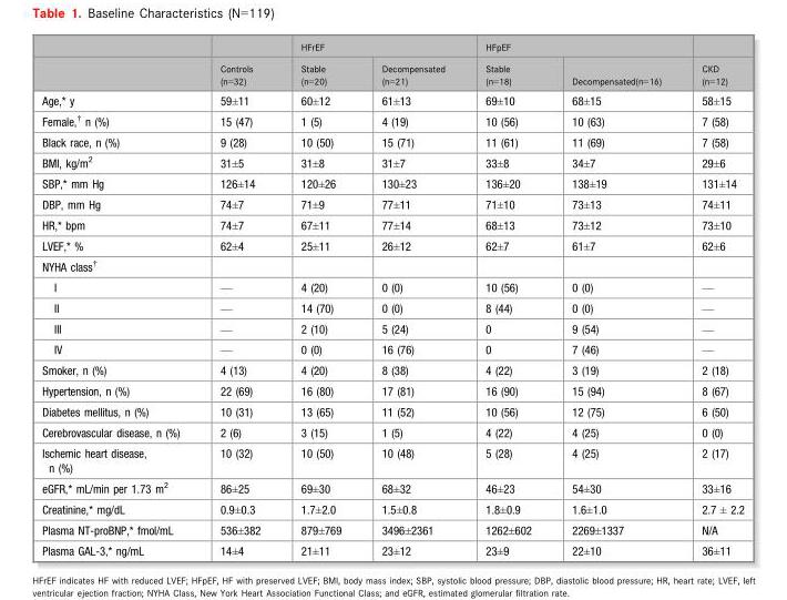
<table><thead><tr><td rowspan="2"></td><td rowspan="2">Controls (n=32)</td><td colspan="2">HFrEF</td><td colspan="2">HFpEF</td><td rowspan="2">CKD (n=12)</td></tr><tr><td>Stable (n=20)</td><td>Decompensated (n=21)</td><td>Stable (n=18)</td><td>Decompensated(n=16)</td></tr></thead><tbody><tr><td>Age,* y</td><td>59±11</td><td>60±12</td><td>61±13</td><td>69±10</td><td>68±15</td><td>58±15</td></tr><tr><td>Female,† n (%)</td><td>15 (47)</td><td>1 (5)</td><td>4 (19)</td><td>10 (56)</td><td>10 (63)</td><td>7 (58)</td></tr><tr><td>Black race, n (%)</td><td>9 (28)</td><td>10 (50)</td><td>15 (71)</td><td>11 (61)</td><td>11 (69)</td><td>7 (58)</td></tr><tr><td>BMI, kg/m<sup>2</sup></td><td>31±5</td><td>31±8</td><td>31±7</td><td>33±8</td><td>34±7</td><td>29±6</td></tr><tr><td>SBP,* mm Hg</td><td>126±14</td><td>120±26</td><td>130±23</td><td>136±20</td><td>138±19</td><td>131±14</td></tr><tr><td>DBP, mm Hg</td><td>74±7</td><td>71±9</td><td>77±11</td><td>71±10</td><td>73±13</td><td>74±11</td></tr><tr><td>HR,* bpm</td><td>74±7</td><td>67±11</td><td>77±14</td><td>68±13</td><td>73±12</td><td>73±10</td></tr><tr><td>LVEF,* %</td><td>62±4</td><td>25±11</td><td>26±12</td><td>62±7</td><td>61±7</td><td>62±6</td></tr><tr><td colspan="7">NYHA class†</td></tr><tr><td>I</td><td>—</td><td>4 (20)</td><td>0 (0)</td><td>10 (56)</td><td>0 (0)</td><td>—</td></tr><tr><td>II</td><td>—</td><td>14 (70)</td><td>0 (0)</td><td>8 (44)</td><td>0 (0)</td><td>—</td></tr><tr><td>III</td><td>—</td><td>2 (10)</td><td>5 (24)</td><td>0</td><td>9 (54)</td><td>—</td></tr><tr><td>IV</td><td>—</td><td>0 (0)</td><td>16 (76)</td><td>0</td><td>7 (46)</td><td>—</td></tr><tr><td>Smoker, n (%)</td><td>4 (13)</td><td>4 (20)</td><td>8 (38)</td><td>4 (22)</td><td>3 (19)</td><td>2 (18)</td></tr><tr><td>Hypertension, n (%)</td><td>22 (69)</td><td>16 (80)</td><td>17 (81)</td><td>16 (90)</td><td>15 (94)</td><td>8 (67)</td></tr><tr><td>Diabetes mellitus, n (%)</td><td>10 (31)</td><td>13 (65)</td><td>11 (52)</td><td>10 (56)</td><td>12 (75)</td><td>6 (50)</td></tr><tr><td>Cerebrovascular disease, n (%)</td><td>2 (6)</td><td>3 (15)</td><td>1 (5)</td><td>4 (22)</td><td>4 (25)</td><td>0 (0)</td></tr><tr><td>Ischemic heart disease, n (%)</td><td>10 (32)</td><td>10 (50)</td><td>10 (48)</td><td>5 (28)</td><td>4 (25)</td><td>2 (17)</td></tr><tr><td>eGFR,* mL/min per 1.73 m<sup>2</sup></td><td>86±25</td><td>69±30</td><td>68±32</td><td>46±23</td><td>54±30</td><td>33±16</td></tr><tr><td>Creatinine,* mg/dL</td><td>0.9±0.3</td><td>1.7±2.0</td><td>1.5±0.8</td><td>1.8±0.9</td><td>1.6±1.0</td><td>2.7 ± 2.2</td></tr><tr><td>Plasma NT-proBNP,* fmol/mL</td><td>536±382</td><td>879±769</td><td>3496±2361</td><td>1262±602</td><td>2269±1337</td><td>N/A</td></tr><tr><td>Plasma GAL-3,* ng/mL</td><td>14±4</td><td>21±11</td><td>23±12</td><td>23±9</td><td>22±10</td><td>36±11</td></tr></tbody></table>